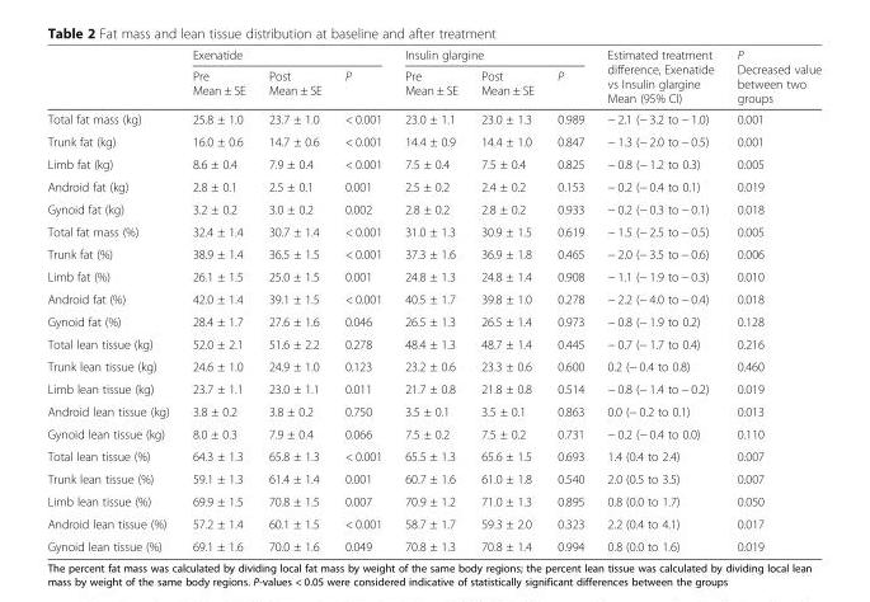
<table><thead><tr><td rowspan="2"></td><td colspan="3">Exenatide</td><td colspan="3">Insulin glargine</td><td rowspan="2">Estimated treatment difference, Exenatide vs Insulin glargine Mean (95% CI)</td><td rowspan="2">P Decreased value between two groups</td></tr><tr><td>Pre Mean ± SE</td><td>Post Mean ± SE</td><td>P</td><td>Pre Mean ± SE</td><td>Post Mean ± SE</td><td>P</td></tr></thead><tbody><tr><td>Total fat mass (kg)</td><td>25.8 ± 1.0</td><td>23.7 ± 1.0</td><td>&lt; 0.001</td><td>23.0 ± 1.1</td><td>23.0 ± 1.3</td><td>0.989</td><td>− 2.1 (− 3.2 to − 1.0)</td><td>0.001</td></tr><tr><td>Trunk fat (kg)</td><td>16.0 ± 0.6</td><td>14.7 ± 0.6</td><td>&lt; 0.001</td><td>14.4 ± 0.9</td><td>14.4 ± 1.0</td><td>0.847</td><td>− 1.3 (− 2.0 to − 0.5)</td><td>0.001</td></tr><tr><td>Limb fat (kg)</td><td>8.6 ± 0.4</td><td>7.9 ± 0.4</td><td>&lt; 0.001</td><td>7.5 ± 0.4</td><td>7.5 ± 0.4</td><td>0.825</td><td>− 0.8 (− 1.2 to 0.3)</td><td>0.005</td></tr><tr><td>Android fat (kg)</td><td>2.8 ± 0.1</td><td>2.5 ± 0.1</td><td>0.001</td><td>2.5 ± 0.2</td><td>2.4 ± 0.2</td><td>0.153</td><td>− 0.2 (− 0.4 to 0.1)</td><td>0.019</td></tr><tr><td>Gynoid fat (kg)</td><td>3.2 ± 0.2</td><td>3.0 ± 0.2</td><td>0.002</td><td>2.8 ± 0.2</td><td>2.8 ± 0.2</td><td>0.933</td><td>− 0.2 (− 0.3 to − 0.1)</td><td>0.018</td></tr><tr><td>Total fat mass (%)</td><td>32.4 ± 1.4</td><td>30.7 ± 1.4</td><td>&lt; 0.001</td><td>31.0 ± 1.3</td><td>30.9 ± 1.5</td><td>0.619</td><td>− 1.5 (− 2.5 to − 0.5)</td><td>0.005</td></tr><tr><td>Trunk fat (%)</td><td>38.9 ± 1.4</td><td>36.5 ± 1.5</td><td>&lt; 0.001</td><td>37.3 ± 1.6</td><td>36.9 ± 1.8</td><td>0.465</td><td>− 2.0 (− 3.5 to − 0.6)</td><td>0.006</td></tr><tr><td>Limb fat (%)</td><td>26.1 ± 1.5</td><td>25.0 ± 1.5</td><td>0.001</td><td>24.8 ± 1.3</td><td>24.8 ± 1.4</td><td>0.908</td><td>− 1.1 (− 1.9 to − 0.3)</td><td>0.010</td></tr><tr><td>Android fat (%)</td><td>42.0 ± 1.4</td><td>39.1 ± 1.5</td><td>&lt; 0.001</td><td>40.5 ± 1.7</td><td>39.8 ± 1.0</td><td>0.278</td><td>− 2.2 (− 4.0 to − 0.4)</td><td>0.018</td></tr><tr><td>Gynoid fat (%)</td><td>28.4 ± 1.7</td><td>27.6 ± 1.6</td><td>0.046</td><td>26.5 ± 1.3</td><td>26.5 ± 1.4</td><td>0.973</td><td>− 0.8 (− 1.9 to 0.2)</td><td>0.128</td></tr><tr><td>Total lean tissue (kg)</td><td>52.0 ± 2.1</td><td>51.6 ± 2.2</td><td>0.278</td><td>48.4 ± 1.3</td><td>48.7 ± 1.4</td><td>0.445</td><td>− 0.7 (− 1.7 to 0.4)</td><td>0.216</td></tr><tr><td>Trunk lean tissue (kg)</td><td>24.6 ± 1.0</td><td>24.9 ± 1.0</td><td>0.123</td><td>23.2 ± 0.6</td><td>23.3 ± 0.6</td><td>0.600</td><td>0.2 (− 0.4 to 0.8)</td><td>0.460</td></tr><tr><td>Limb lean tissue (kg)</td><td>23.7 ± 1.1</td><td>23.0 ± 1.1</td><td>0.011</td><td>21.7 ± 0.8</td><td>21.8 ± 0.8</td><td>0.514</td><td>− 0.8 (− 1.4 to − 0.2)</td><td>0.019</td></tr><tr><td>Android lean tissue (kg)</td><td>3.8 ± 0.2</td><td>3.8 ± 0.2</td><td>0.750</td><td>3.5 ± 0.1</td><td>3.5 ± 0.1</td><td>0.863</td><td>0.0 (− 0.2 to 0.1)</td><td>0.013</td></tr><tr><td>Gynoid lean tissue (kg)</td><td>8.0 ± 0.3</td><td>7.9 ± 0.4</td><td>0.066</td><td>7.5 ± 0.2</td><td>7.5 ± 0.2</td><td>0.731</td><td>− 0.2 (− 0.4 to 0.0)</td><td>0.110</td></tr><tr><td>Total lean tissue (%)</td><td>64.3 ± 1.3</td><td>65.8 ± 1.3</td><td>&lt; 0.001</td><td>65.5 ± 1.3</td><td>65.6 ± 1.5</td><td>0.693</td><td>1.4 (0.4 to 2.4)</td><td>0.007</td></tr><tr><td>Trunk lean tissue (%)</td><td>59.1 ± 1.3</td><td>61.4 ± 1.4</td><td>0.001</td><td>60.7 ± 1.6</td><td>61.0 ± 1.8</td><td>0.540</td><td>2.0 (0.5 to 3.5)</td><td>0.007</td></tr><tr><td>Limb lean tissue (%)</td><td>69.9 ± 1.5</td><td>70.8 ± 1.5</td><td>0.007</td><td>70.9 ± 1.2</td><td>71.0 ± 1.3</td><td>0.895</td><td>0.8 (0.0 to 1.7)</td><td>0.050</td></tr><tr><td>Android lean tissue (%)</td><td>57.2 ± 1.4</td><td>60.1 ± 1.5</td><td>&lt; 0.001</td><td>58.7 ± 1.7</td><td>59.3 ± 2.0</td><td>0.323</td><td>2.2 (0.4 to 4.1)</td><td>0.017</td></tr><tr><td>Gynoid lean tissue (%)</td><td>69.1 ± 1.6</td><td>70.0 ± 1.6</td><td>0.049</td><td>70.8 ± 1.3</td><td>70.8 ± 1.4</td><td>0.994</td><td>0.8 (0.0 to 1.6)</td><td>0.019</td></tr></tbody></table>